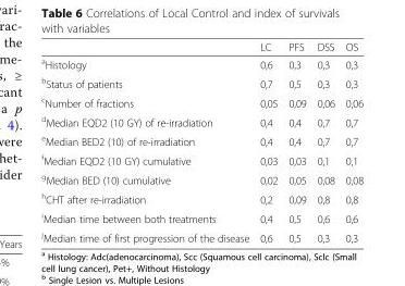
<table><thead><tr><td></td><td>LC</td><td>PFS</td><td>DSS</td><td>OS</td></tr></thead><tbody><tr><td><sup>a</sup>Histology</td><td>0,6</td><td>0,3</td><td>0,3</td><td>0,3</td></tr><tr><td><sup>b</sup>Status of patients</td><td>0,7</td><td>0,5</td><td>0,3</td><td>0,3</td></tr><tr><td><sup>c</sup>Number of fractions</td><td>0,05</td><td>0,09</td><td>0,06</td><td>0,06</td></tr><tr><td><sup>d</sup>Median EQD2 (10 GY) of re-irradiation</td><td>0,4</td><td>0,4</td><td>0,7</td><td>0,7</td></tr><tr><td><sup>e</sup>Median BED2 (10) of re-irradiation</td><td>0,4</td><td>0,4</td><td>0,7</td><td>0,7</td></tr><tr><td><sup>f</sup>Median EQD2 (10 GY) cumulative</td><td>0,03</td><td>0,03</td><td>0,1</td><td>0,1</td></tr><tr><td><sup>g</sup>Median BED (10) cumulative</td><td>0,02</td><td>0,05</td><td>0,08</td><td>0,08</td></tr><tr><td><sup>h</sup>CHT after re-irradiation</td><td>0,2</td><td>0,09</td><td>0,8</td><td>0,8</td></tr><tr><td><sup>i</sup>Median time between both treatments</td><td>0,4</td><td>0,5</td><td>0,6</td><td>0,6</td></tr><tr><td><sup>j</sup>Median time of first progression of the disease</td><td>0,6</td><td>0,5</td><td>0,3</td><td>0,3</td></tr></tbody></table>